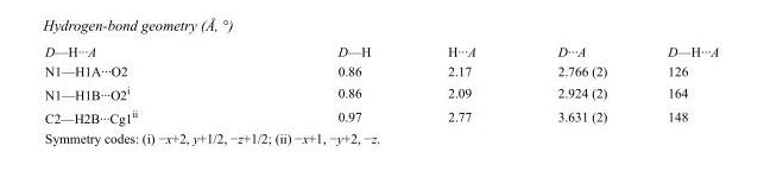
<table><tbody><tr><td>D—H···A</td><td>D—H</td><td>H···A</td><td>D···A</td><td>D—H···A</td></tr><tr><td>N1—H1A···O2</td><td>0.86</td><td>2.17</td><td>2.766 (2)</td><td>126</td></tr><tr><td>N1—H1B···O2<sup>i</sup></td><td>0.86</td><td>2.09</td><td>2.924 (2)</td><td>164</td></tr><tr><td>C2—H2B···Cg1<sup>ii</sup></td><td>0.97</td><td>2.77</td><td>3.631 (2)</td><td>148</td></tr></tbody></table>